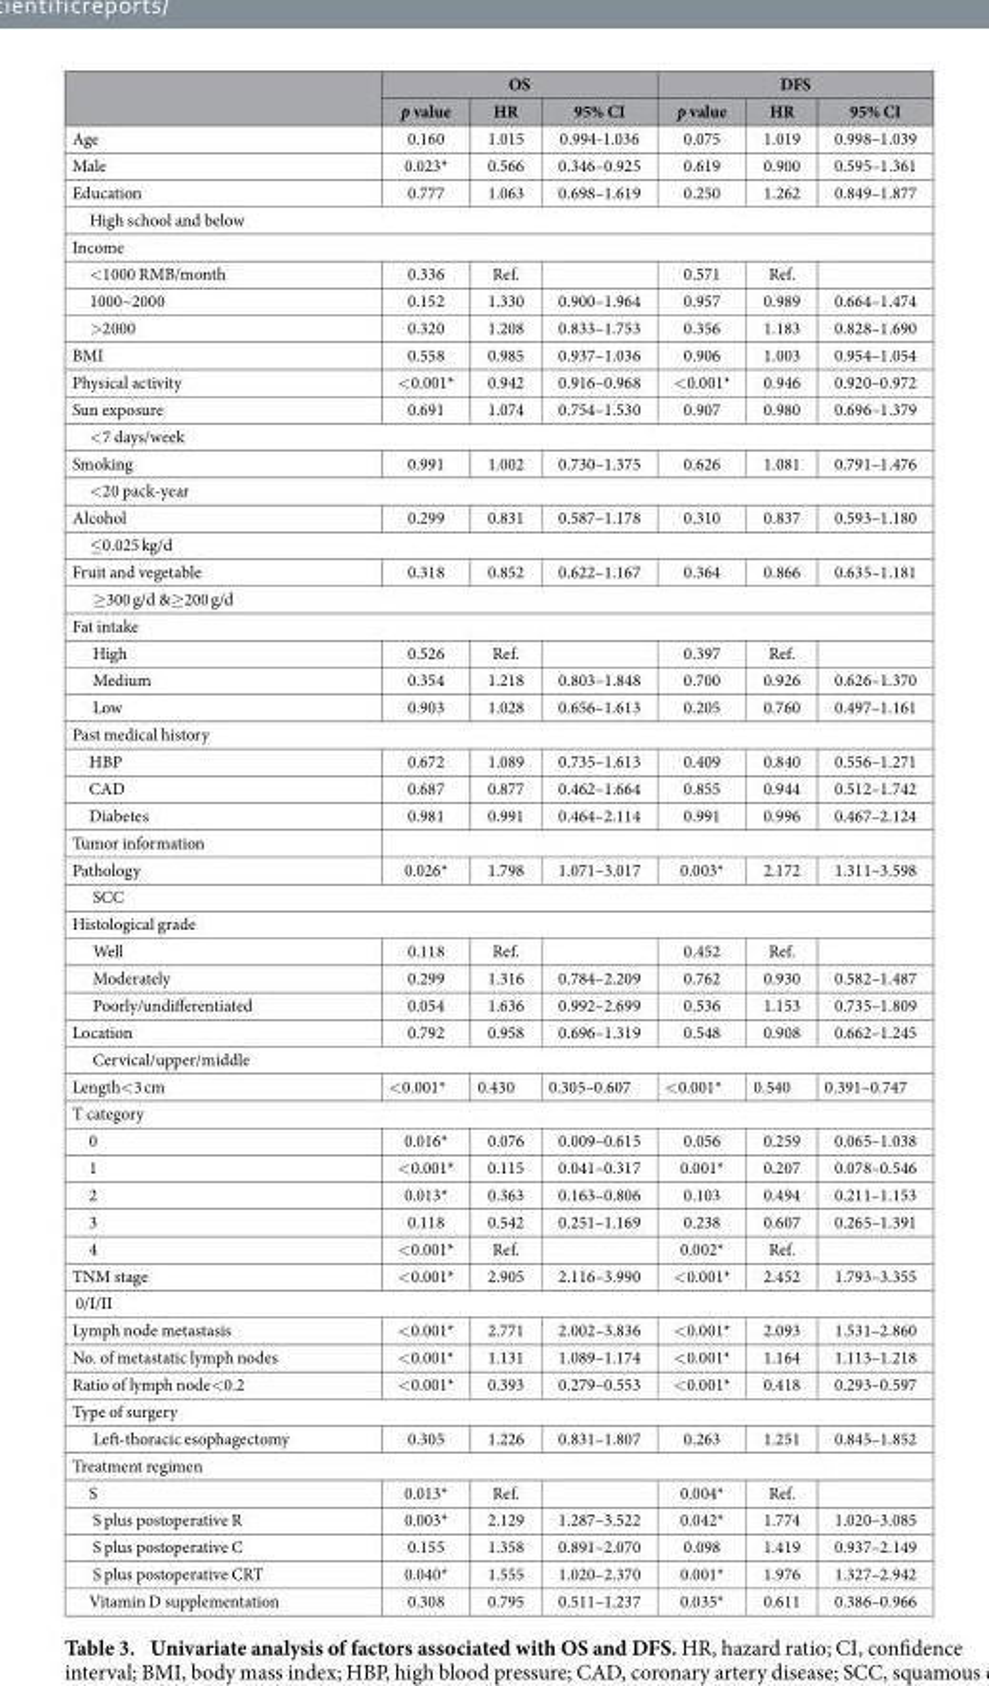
<table><thead><tr><td rowspan="2"></td><td colspan="3">OS</td><td colspan="3">DFS</td></tr><tr><td>p value</td><td>HR</td><td>95% CI</td><td>p value</td><td>HR</td><td>95% CI</td></tr></thead><tbody><tr><td>Age</td><td>0.160</td><td>1.015</td><td>0.994-1.036</td><td>0.075</td><td>1.019</td><td>0.998–1.039</td></tr><tr><td>Male</td><td>0.023*</td><td>0.566</td><td>0.346–0.925</td><td>0.619</td><td>0.900</td><td>0.595–1.361</td></tr><tr><td>Education</td><td>0.777</td><td>1.063</td><td>0.698–1.619</td><td>0.250</td><td>1.262</td><td>0.849–1.877</td></tr><tr><td colspan="7">High school and below</td></tr><tr><td colspan="7">Income</td></tr><tr><td>&lt; 1000 RMB/month</td><td>0.336</td><td>Ref.</td><td></td><td>0.571</td><td>Ref.</td><td></td></tr><tr><td>1000~2000</td><td>0.152</td><td>1.330</td><td>0.900–1.964</td><td>0.957</td><td>0.989</td><td>0.664–1.474</td></tr><tr><td>&gt; 2000</td><td>0.320</td><td>1.208</td><td>0.833–1.753</td><td>0.356</td><td>1.183</td><td>0.828–1.690</td></tr><tr><td>BMI</td><td>0.558</td><td>0.985</td><td>0.937–1.036</td><td>0.906</td><td>1.003</td><td>0.954–1.054</td></tr><tr><td>Physical activity</td><td>&lt; 0.001*</td><td>0.942</td><td>0.916–0.968</td><td>&lt; 0.001*</td><td>0.946</td><td>0.920–0.972</td></tr><tr><td>Sun exposure</td><td>0.691</td><td>1.074</td><td>0.754–1.530</td><td>0.907</td><td>0.980</td><td>0.696–1.379</td></tr><tr><td colspan="7">&lt; 7 days/week</td></tr><tr><td>Smoking</td><td>0.991</td><td>1.002</td><td>0.730–1.375</td><td>0.626</td><td>1.081</td><td>0.791–1.476</td></tr><tr><td colspan="7">&lt; 20 pack-year</td></tr><tr><td>Alcohol</td><td>0.299</td><td>0.831</td><td>0.587–1.178</td><td>0.310</td><td>0.837</td><td>0.593–1.180</td></tr><tr><td colspan="7">≤ 0.025 kg/d</td></tr><tr><td>Fruit and vegetable</td><td>0.318</td><td>0.852</td><td>0.622–1.167</td><td>0.364</td><td>0.866</td><td>0.635–1.181</td></tr><tr><td colspan="7">≥ 300 g/d &amp;≥ 200 g/d</td></tr><tr><td colspan="7">Fat intake</td></tr><tr><td>High</td><td>0.526</td><td>Ref.</td><td></td><td>0.397</td><td>Ref.</td><td></td></tr><tr><td>Medium</td><td>0.354</td><td>1.218</td><td>0.803–1.848</td><td>0.700</td><td>0.926</td><td>0.626–1.370</td></tr><tr><td>Low</td><td>0.903</td><td>1.028</td><td>0.656–1.613</td><td>0.205</td><td>0.760</td><td>0.497–1.161</td></tr><tr><td colspan="7">Past medical history</td></tr><tr><td>HBP</td><td>0.672</td><td>1.089</td><td>0.735–1.613</td><td>0.409</td><td>0.840</td><td>0.556–1.271</td></tr><tr><td>CAD</td><td>0.687</td><td>0.877</td><td>0.462–1.664</td><td>0.855</td><td>0.944</td><td>0.512–1.742</td></tr><tr><td>Diabetes</td><td>0.981</td><td>0.991</td><td>0.464–2.114</td><td>0.991</td><td>0.996</td><td>0.467–2.124</td></tr><tr><td colspan="7">Tumor information</td></tr><tr><td>Pathology</td><td>0.026*</td><td>1.798</td><td>1.071–3.017</td><td>0.003*</td><td>2.172</td><td>1.311–3.598</td></tr><tr><td colspan="7">SCC</td></tr><tr><td colspan="7">Histological grade</td></tr><tr><td>Well</td><td>0.118</td><td>Ref.</td><td></td><td>0.452</td><td>Ref.</td><td></td></tr><tr><td>Moderately</td><td>0.299</td><td>1.316</td><td>0.784–2.209</td><td>0.762</td><td>0.930</td><td>0.582–1.487</td></tr><tr><td>Poorly/undifferentiated</td><td>0.054</td><td>1.636</td><td>0.992–2.699</td><td>0.536</td><td>1.153</td><td>0.735–1.809</td></tr><tr><td>Location</td><td>0.792</td><td>0.958</td><td>0.696–1.319</td><td>0.548</td><td>0.908</td><td>0.662–1.245</td></tr><tr><td colspan="7">Cervical/upper/middle</td></tr><tr><td>Length&lt; 3 cm</td><td>&lt; 0.001*</td><td>0.430</td><td>0.305–0.607</td><td>&lt; 0.001*</td><td>0.540</td><td>0.391–0.747</td></tr><tr><td colspan="7">T category</td></tr><tr><td>0</td><td>0.016*</td><td>0.076</td><td>0.009–0.615</td><td>0.056</td><td>0.259</td><td>0.065–1.038</td></tr><tr><td>1</td><td>&lt; 0.001*</td><td>0.115</td><td>0.041–0.317</td><td>0.001*</td><td>0.207</td><td>0.078–0.546</td></tr><tr><td>2</td><td>0.013*</td><td>0.363</td><td>0.163–0.806</td><td>0.103</td><td>0.494</td><td>0.211–1.153</td></tr><tr><td>3</td><td>0.118</td><td>0.542</td><td>0.251–1.169</td><td>0.238</td><td>0.607</td><td>0.265–1.391</td></tr><tr><td>4</td><td>&lt; 0.001*</td><td>Ref.</td><td></td><td>0.002*</td><td>Ref.</td><td></td></tr><tr><td>TNM stage</td><td>&lt; 0.001*</td><td>2.905</td><td>2.116–3.990</td><td>&lt; 0.001*</td><td>2.452</td><td>1.793–3.355</td></tr><tr><td colspan="7">0/I/II</td></tr><tr><td>Lymph node metastasis</td><td>&lt; 0.001*</td><td>2.771</td><td>2.002–3.836</td><td>&lt; 0.001*</td><td>2.093</td><td>1.531–2.860</td></tr><tr><td>No. of metastatic lymph nodes</td><td>&lt; 0.001*</td><td>1.131</td><td>1.089–1.174</td><td>&lt; 0.001*</td><td>1.164</td><td>1.113–1.218</td></tr><tr><td>Ratio of lymph node&lt; 0.2</td><td>&lt; 0.001*</td><td>0.393</td><td>0.279–0.553</td><td>&lt; 0.001*</td><td>0.418</td><td>0.293–0.597</td></tr><tr><td colspan="7">Type of surgery</td></tr><tr><td>Left-thoracic esophagectomy</td><td>0.305</td><td>1.226</td><td>0.831–1.807</td><td>0.263</td><td>1.251</td><td>0.845–1.852</td></tr><tr><td colspan="7">Treatment regimen</td></tr><tr><td>S</td><td>0.013*</td><td>Ref.</td><td></td><td>0.004*</td><td>Ref.</td><td></td></tr><tr><td>S plus postoperative R</td><td>0.003*</td><td>2.129</td><td>1.287–3.522</td><td>0.042*</td><td>1.774</td><td>1.020–3.085</td></tr><tr><td>S plus postoperative C</td><td>0.155</td><td>1.358</td><td>0.891–2.070</td><td>0.098</td><td>1.419</td><td>0.937–2.149</td></tr><tr><td>S plus postoperative CRT</td><td>0.040*</td><td>1.555</td><td>1.020–2.370</td><td>0.001*</td><td>1.976</td><td>1.327–2.942</td></tr><tr><td>Vitamin D supplementation</td><td>0.308</td><td>0.795</td><td>0.511–1.237</td><td>0.035*</td><td>0.611</td><td>0.386–0.966</td></tr></tbody></table>